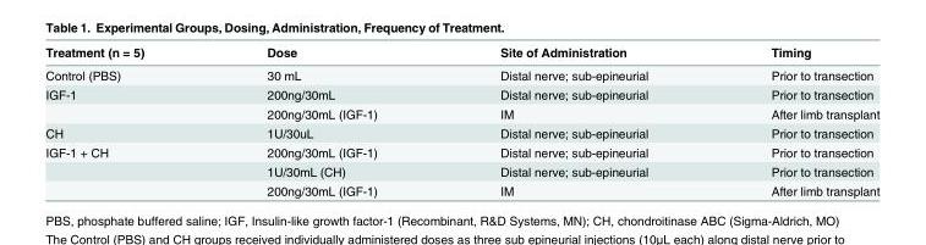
<table><thead><tr><td>Treatment (n = 5)</td><td>Dose</td><td>Site of Administration</td><td>Timing</td></tr></thead><tbody><tr><td>Control (PBS)</td><td>30 mL</td><td>Distal nerve; sub-epineurial</td><td>Prior to transection</td></tr><tr><td rowspan="2">IGF-1</td><td>200ng/30mL</td><td>Distal nerve; sub-epineurial</td><td>Prior to transection</td></tr><tr><td>200ng/30mL (IGF-1)</td><td>IM</td><td>After limb transplant</td></tr><tr><td>CH</td><td>1U/30uL</td><td>Distal nerve; sub-epineurial</td><td>Prior to transection</td></tr><tr><td rowspan="3">IGF-1 + CH</td><td>200ng/30mL (IGF-1)</td><td>Distal nerve; sub-epineurial</td><td>Prior to transection</td></tr><tr><td>1U/30mL (CH)</td><td>Distal nerve; sub-epineurial</td><td>Prior to transection</td></tr><tr><td>200ng/30mL (IGF-1)</td><td>IM</td><td>After limb transplant</td></tr></tbody></table>